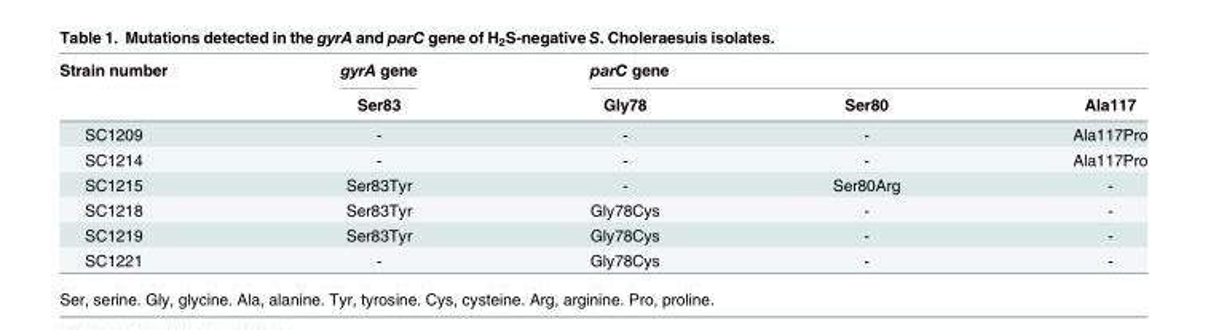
<table><thead><tr><td rowspan="2">Strain number</td><td rowspan="2">gyrA gene Ser83</td><td colspan="3">parC gene</td></tr><tr><td>Gly78</td><td>Ser80</td><td>Ala117</td></tr></thead><tbody><tr><td>SC1209</td><td>-</td><td>-</td><td>-</td><td>Ala117Pro</td></tr><tr><td>SC1214</td><td>-</td><td>-</td><td>-</td><td>Ala117Pro</td></tr><tr><td>SC1215</td><td>Ser83Tyr</td><td>-</td><td>Ser80Arg</td><td>-</td></tr><tr><td>SC1218</td><td>Ser83Tyr</td><td>Gly78Cys</td><td>-</td><td>-</td></tr><tr><td>SC1219</td><td>Ser83Tyr</td><td>Gly78Cys</td><td>-</td><td>-</td></tr><tr><td>SC1221</td><td>-</td><td>Gly78Cys</td><td>-</td><td>-</td></tr></tbody></table>